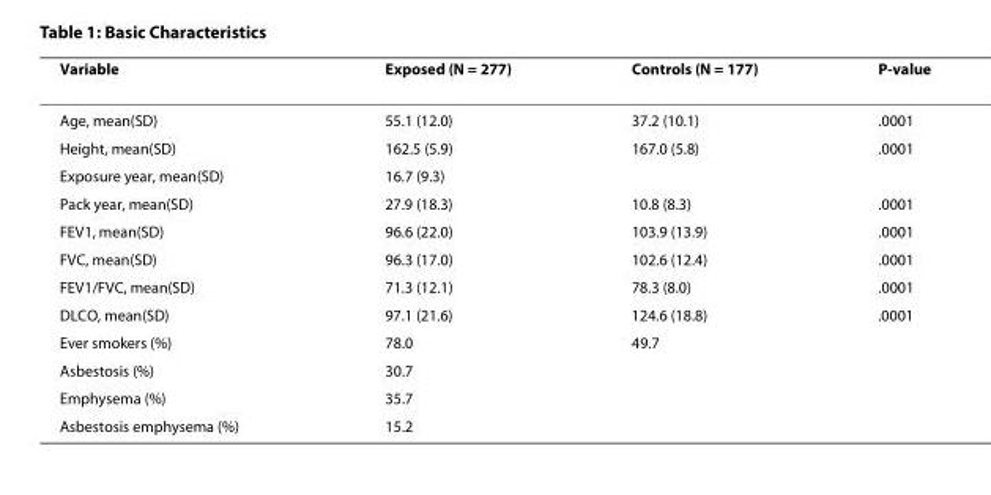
<table><thead><tr><td>Variable</td><td>Exposed (N = 277)</td><td>Controls (N = 177)</td><td>P-value</td></tr></thead><tbody><tr><td>Age, mean(SD)</td><td>55.1 (12.0)</td><td>37.2 (10.1)</td><td>.0001</td></tr><tr><td>Height, mean(SD)</td><td>162.5 (5.9)</td><td>167.0 (5.8)</td><td>.0001</td></tr><tr><td>Exposure year, mean(SD)</td><td>16.7 (9.3)</td><td></td><td></td></tr><tr><td>Pack year, mean(SD)</td><td>27.9 (18.3)</td><td>10.8 (8.3)</td><td>.0001</td></tr><tr><td>FEV1, mean(SD)</td><td>96.6 (22.0)</td><td>103.9 (13.9)</td><td>.0001</td></tr><tr><td>FVC, mean(SD)</td><td>96.3 (17.0)</td><td>102.6 (12.4)</td><td>.0001</td></tr><tr><td>FEV1/FVC, mean(SD)</td><td>71.3 (12.1)</td><td>78.3 (8.0)</td><td>.0001</td></tr><tr><td>DLCO, mean(SD)</td><td>97.1 (21.6)</td><td>124.6 (18.8)</td><td>.0001</td></tr><tr><td>Ever smokers (%)</td><td>78.0</td><td>49.7</td><td></td></tr><tr><td>Asbestosis (%)</td><td>30.7</td><td></td><td></td></tr><tr><td>Emphysema (%)</td><td>35.7</td><td></td><td></td></tr><tr><td>Asbestosis emphysema (%)</td><td>15.2</td><td></td><td></td></tr></tbody></table>